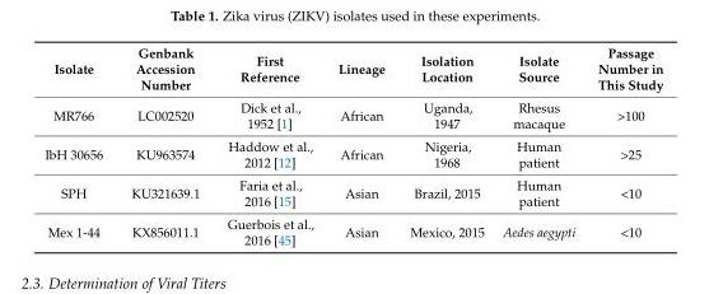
<table><thead><tr><td>Isolate</td><td>Genbank Accession Number</td><td>First Reference</td><td>Lineage</td><td>Isolation Location</td><td>Isolate Source</td><td>Passage Number in This Study</td></tr></thead><tbody><tr><td>MR766</td><td>LC002520</td><td>Dick et al., 1952 [1]</td><td>African</td><td>Uganda, 1947</td><td>Rhesus macaque</td><td>&gt;100</td></tr><tr><td>IbH 30656</td><td>KU963574</td><td>Haddow et al., 2012 [12]</td><td>African</td><td>Nigeria, 1968</td><td>Human patient</td><td>&gt;25</td></tr><tr><td>SPH</td><td>KU321639.1</td><td>Faria et al., 2016 [15]</td><td>Asian</td><td>Brazil, 2015</td><td>Human patient</td><td>&lt;10</td></tr><tr><td>Mex 1-44</td><td>KX856011.1</td><td>Guerbois et al., 2016 [45]</td><td>Asian</td><td>Mexico, 2015</td><td>Aedes aegypti</td><td>&lt;10</td></tr></tbody></table>